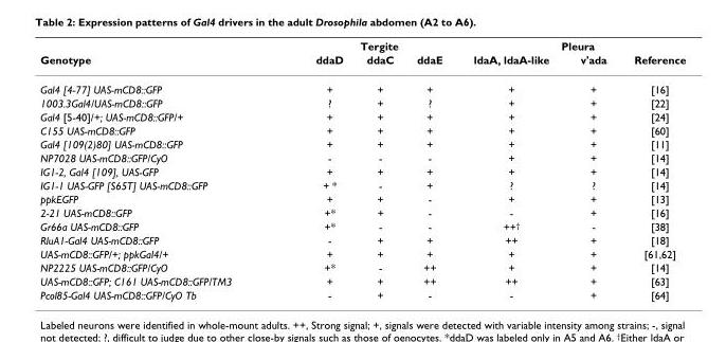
<table><thead><tr><td rowspan="2">Genotype</td><td colspan="3">Tergite</td><td colspan="3">Pleura</td></tr><tr><td>ddaD</td><td>ddaC</td><td>ddaE</td><td>ldaA, ldaA-like</td><td>v&#x27;ada</td><td>Reference</td></tr></thead><tbody><tr><td>Gal4 [4-77] UAS-mCD8::GFP</td><td>+</td><td>+</td><td>+</td><td>+</td><td>+</td><td>[16]</td></tr><tr><td>1003.3Gal4/UAS-mCD8::GFP</td><td>?</td><td>+</td><td>?</td><td>+</td><td>+</td><td>[22]</td></tr><tr><td>Gal4 [5-40]/+; UAS-mCD8::GFP/+</td><td>+</td><td>+</td><td>+</td><td>+</td><td>+</td><td>[24]</td></tr><tr><td>C155 UAS-mCD8::GFP</td><td>+</td><td>+</td><td>+</td><td>+</td><td>+</td><td>[60]</td></tr><tr><td>Gal4 [109(2)80] UAS-mCD8::GFP</td><td>+</td><td>+</td><td>+</td><td>+</td><td>+</td><td>[11]</td></tr><tr><td>NP7028 UAS-mCD8::GFP/CyO</td><td>-</td><td>-</td><td>-</td><td>+</td><td>+</td><td>[14]</td></tr><tr><td>IG1-2, Gal4 [109], UAS-GFP</td><td>+</td><td>+</td><td>+</td><td>+</td><td>+</td><td>[14]</td></tr><tr><td>IG1-1 UAS-GFP [S65T] UAS-mCD8::GFP</td><td>+ *</td><td>-</td><td>+</td><td>?</td><td>?</td><td>[14]</td></tr><tr><td>ppkEGFP</td><td>+</td><td>+</td><td>-</td><td>+</td><td>+</td><td>[13]</td></tr><tr><td>2-21 UAS-mCD8::GFP</td><td>+*</td><td>+</td><td>-</td><td>-</td><td>+</td><td>[16]</td></tr><tr><td>Gr66a UAS-mCD8::GFP</td><td>+*</td><td>-</td><td>-</td><td>++<sup>†</sup></td><td>-</td><td>[38]</td></tr><tr><td>RluA1-Gal4 UAS-mCD8::GFP</td><td>-</td><td>+</td><td>+</td><td>++</td><td>+</td><td>[18]</td></tr><tr><td>UAS-mCD8::GFP/+; ppkGal4/+</td><td>+</td><td>+</td><td>+</td><td>+</td><td>+</td><td>[61,62]</td></tr><tr><td>NP2225 UAS-mCD8::GFP/CyO</td><td>+*</td><td>-</td><td>++</td><td>+</td><td>+</td><td>[14]</td></tr><tr><td>UAS-mCD8::GFP; C161 UAS-mCD8::GFP/TM3</td><td>+</td><td>+</td><td>++</td><td>++</td><td>+</td><td>[63]</td></tr><tr><td>Pcol85-Gal4 UAS-mCD8::GFP/CyO Tb</td><td>-</td><td>+</td><td>-</td><td>-</td><td>+</td><td>[64]</td></tr></tbody></table>